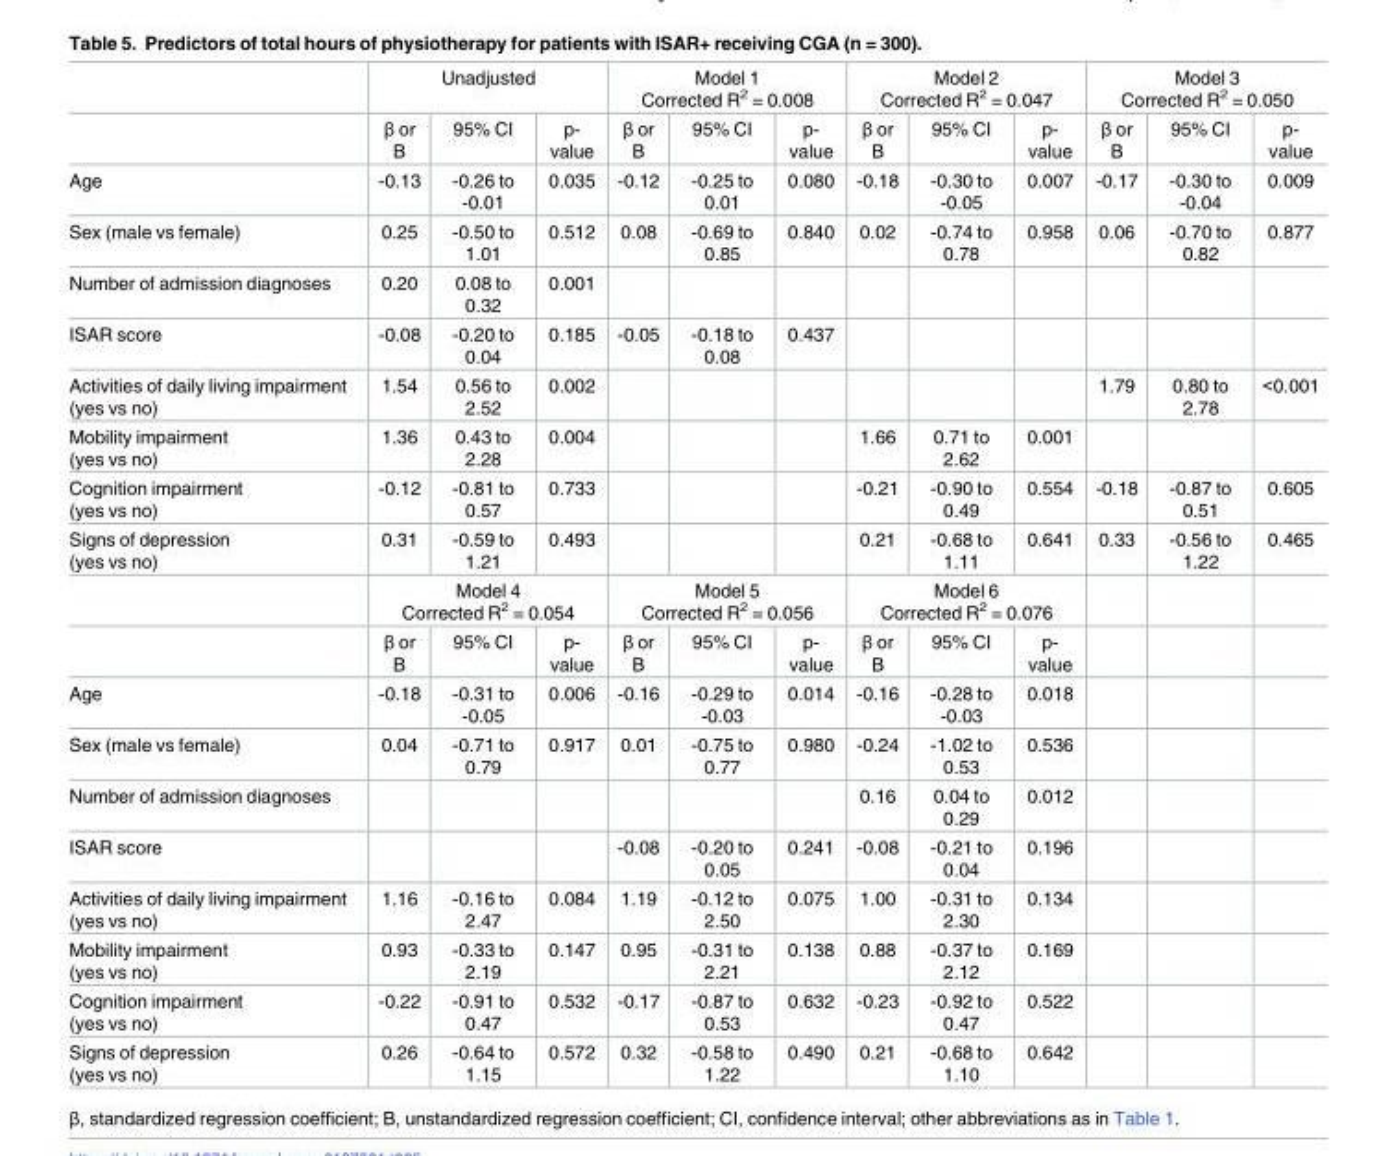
<table><thead><tr><td rowspan="2"></td><td colspan="3">Unadjusted</td><td colspan="3">Model 1 Corrected R<sup>2</sup> = 0.008</td><td colspan="3">Model 2 Corrected R<sup>2</sup> = 0.047</td><td colspan="3">Model 3 Corrected R<sup>2</sup> = 0.050</td></tr><tr><td>β or B</td><td>95% CI</td><td>p- value</td><td>β or B</td><td>95% CI</td><td>p- value</td><td>β or B</td><td>95% CI</td><td>p- value</td><td>β or B</td><td>95% CI</td><td>p- value</td></tr></thead><tbody><tr><td>Age</td><td>-0.13</td><td>-0.26 to -0.01</td><td>0.035</td><td>-0.12</td><td>-0.25 to 0.01</td><td>0.080</td><td>-0.18</td><td>-0.30 to -0.05</td><td>0.007</td><td>-0.17</td><td>-0.30 to -0.04</td><td>0.009</td></tr><tr><td>Sex (male vs female)</td><td>0.25</td><td>-0.50 to 1.01</td><td>0.512</td><td>0.08</td><td>-0.69 to 0.85</td><td>0.840</td><td>0.02</td><td>-0.74 to 0.78</td><td>0.958</td><td>0.06</td><td>-0.70 to 0.82</td><td>0.877</td></tr><tr><td>Number of admission diagnoses</td><td>0.20</td><td>0.08 to 0.32</td><td>0.001</td><td></td><td></td><td></td><td></td><td></td><td></td><td></td><td></td><td></td></tr><tr><td>ISAR score</td><td>-0.08</td><td>-0.20 to 0.04</td><td>0.185</td><td>-0.05</td><td>-0.18 to 0.08</td><td>0.437</td><td></td><td></td><td></td><td></td><td></td><td></td></tr><tr><td>Activities of daily living impairment (yes vs no)</td><td>1.54</td><td>0.56 to 2.52</td><td>0.002</td><td></td><td></td><td></td><td></td><td></td><td></td><td>1.79</td><td>0.80 to 2.78</td><td>&lt;0.001</td></tr><tr><td>Mobility impairment (yes vs no)</td><td>1.36</td><td>0.43 to 2.28</td><td>0.004</td><td></td><td></td><td></td><td>1.66</td><td>0.71 to 2.62</td><td>0.001</td><td></td><td></td><td></td></tr><tr><td>Cognition impairment (yes vs no)</td><td>-0.12</td><td>-0.81 to 0.57</td><td>0.733</td><td></td><td></td><td></td><td>-0.21</td><td>-0.90 to 0.49</td><td>0.554</td><td>-0.18</td><td>-0.87 to 0.51</td><td>0.605</td></tr><tr><td rowspan="3">Signs of depression (yes vs no)</td><td>0.31</td><td>-0.59 to 1.21</td><td>0.493</td><td></td><td></td><td></td><td>0.21</td><td>-0.68 to 1.11</td><td>0.641</td><td>0.33</td><td>-0.56 to 1.22</td><td>0.465</td></tr><tr><td colspan="3">Model 4 Corrected R<sup>2</sup> = 0.054</td><td colspan="3">Model 5 Corrected R<sup>2</sup> = 0.056</td><td colspan="3">Model 6 Corrected R<sup>2</sup> = 0.076</td><td></td><td></td><td></td></tr><tr><td>β or B</td><td>95% CI</td><td>p- value</td><td>β or B</td><td>95% CI</td><td>p- value</td><td>β or B</td><td>95% CI</td><td>p- value</td><td></td><td></td><td></td></tr><tr><td>Age</td><td>-0.18</td><td>-0.31 to -0.05</td><td>0.006</td><td>-0.16</td><td>-0.29 to -0.03</td><td>0.014</td><td>-0.16</td><td>-0.28 to -0.03</td><td>0.018</td><td></td><td></td><td></td></tr><tr><td>Sex (male vs female)</td><td>0.04</td><td>-0.71 to 0.79</td><td>0.917</td><td>0.01</td><td>-0.75 to 0.77</td><td>0.980</td><td>-0.24</td><td>-1.02 to 0.53</td><td>0.536</td><td></td><td></td><td></td></tr><tr><td>Number of admission diagnoses</td><td></td><td></td><td></td><td></td><td></td><td></td><td>0.16</td><td>0.04 to 0.29</td><td>0.012</td><td></td><td></td><td></td></tr><tr><td>ISAR score</td><td></td><td></td><td></td><td>-0.08</td><td>-0.20 to 0.05</td><td>0.241</td><td>-0.08</td><td>-0.21 to 0.04</td><td>0.196</td><td></td><td></td><td></td></tr><tr><td>Activities of daily living impairment (yes vs no)</td><td>1.16</td><td>-0.16 to 2.47</td><td>0.084</td><td>1.19</td><td>-0.12 to 2.50</td><td>0.075</td><td>1.00</td><td>-0.31 to 2.30</td><td>0.134</td><td></td><td></td><td></td></tr><tr><td>Mobility impairment (yes vs no)</td><td>0.93</td><td>-0.33 to 2.19</td><td>0.147</td><td>0.95</td><td>-0.31 to 2.21</td><td>0.138</td><td>0.88</td><td>-0.37 to 2.12</td><td>0.169</td><td></td><td></td><td></td></tr><tr><td>Cognition impairment (yes vs no)</td><td>-0.22</td><td>-0.91 to 0.47</td><td>0.532</td><td>-0.17</td><td>-0.87 to 0.53</td><td>0.632</td><td>-0.23</td><td>-0.92 to 0.47</td><td>0.522</td><td></td><td></td><td></td></tr><tr><td>Signs of depression (yes vs no)</td><td>0.26</td><td>-0.64 to 1.15</td><td>0.572</td><td>0.32</td><td>-0.58 to 1.22</td><td>0.490</td><td>0.21</td><td>-0.68 to 1.10</td><td>0.642</td><td></td><td></td><td></td></tr></tbody></table>